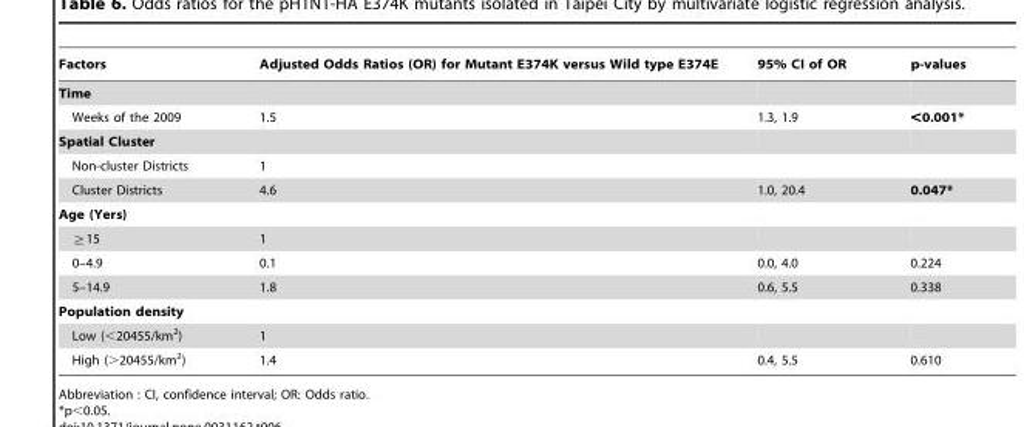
<table><thead><tr><td>Factors</td><td>Adjusted Odds Ratios (OR) for Mutant E374K versus Wild type E374E</td><td>95% CI of OR</td><td>p-values</td></tr></thead><tbody><tr><td colspan="4">Time</td></tr><tr><td>Weeks of the 2009</td><td>1.5</td><td>1.3, 1.9</td><td>&lt;0.001*</td></tr><tr><td colspan="4">Spatial Cluster</td></tr><tr><td>Non-cluster Districts</td><td>1</td><td></td><td></td></tr><tr><td>Cluster Districts</td><td>4.6</td><td>1.0, 20.4</td><td>0.047*</td></tr><tr><td colspan="4">Age (Yers)</td></tr><tr><td>≧15</td><td>1</td><td></td><td></td></tr><tr><td>0–4.9</td><td>0.1</td><td>0.0, 4.0</td><td>0.224</td></tr><tr><td>5–14.9</td><td>1.8</td><td>0.6, 5.5</td><td>0.338</td></tr><tr><td colspan="4">Population density</td></tr><tr><td>Low (&lt;20455/km<sup>2</sup>)</td><td>1</td><td></td><td></td></tr><tr><td>High (&gt;20455/km<sup>2</sup>)</td><td>1.4</td><td>0.4, 5.5</td><td>0.610</td></tr></tbody></table>